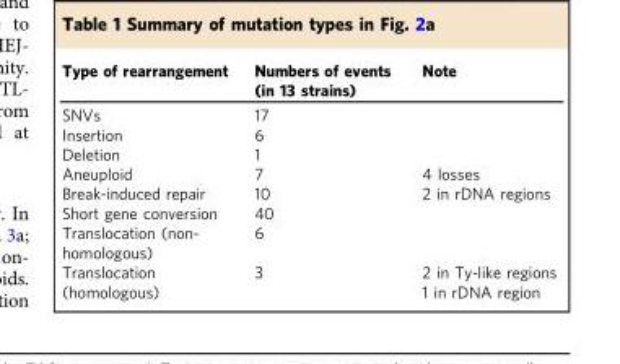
<table><thead><tr><td>Type of rearrangement</td><td>Numbers of events (in 13 strains)</td><td>Note</td></tr></thead><tbody><tr><td>SNVs</td><td>17</td><td></td></tr><tr><td>Insertion</td><td>6</td><td></td></tr><tr><td>Deletion</td><td>1</td><td></td></tr><tr><td>Aneuploid</td><td>7</td><td>4 losses</td></tr><tr><td>Break-induced repair</td><td>10</td><td>2 in rDNA regions</td></tr><tr><td>Short gene conversion</td><td>40</td><td></td></tr><tr><td>Translocation (non- homologous)</td><td>6</td><td></td></tr><tr><td>Translocation (homologous)</td><td>3</td><td>2 in Ty-like regions 1 in rDNA region</td></tr></tbody></table>